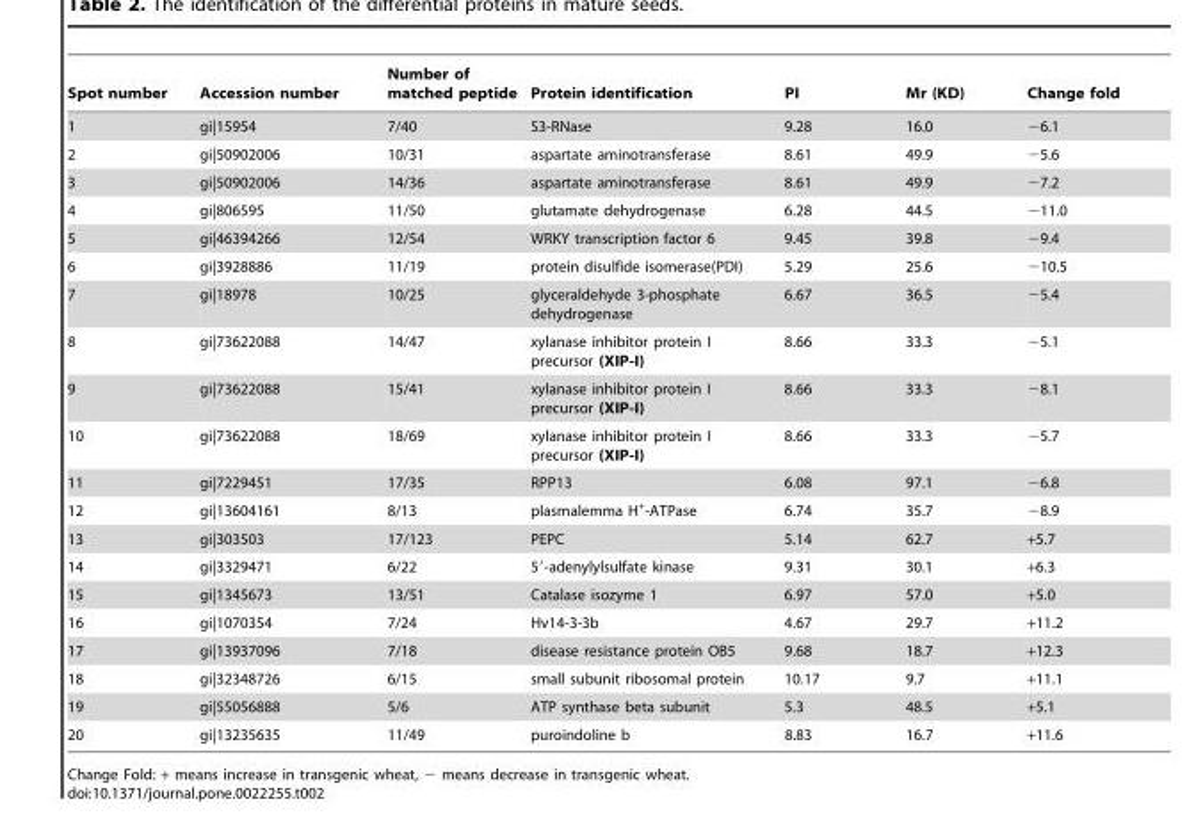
<table><thead><tr><td>Spot number</td><td>Accession number</td><td>Number of matched peptide</td><td>Protein identification</td><td>PI</td><td>Mr (KD)</td><td>Change fold</td></tr></thead><tbody><tr><td>1</td><td>gi|15954</td><td>7/40</td><td>S3-RNase</td><td>9.28</td><td>16.0</td><td>−6.1</td></tr><tr><td>2</td><td>gi|50902006</td><td>10/31</td><td>aspartate aminotransferase</td><td>8.61</td><td>49.9</td><td>−5.6</td></tr><tr><td>3</td><td>gi|50902006</td><td>14/36</td><td>aspartate aminotransferase</td><td>8.61</td><td>49.9</td><td>−7.2</td></tr><tr><td>4</td><td>gi|806595</td><td>11/50</td><td>glutamate dehydrogenase</td><td>6.28</td><td>44.5</td><td>−11.0</td></tr><tr><td>5</td><td>gi|46394266</td><td>12/54</td><td>WRKY transcription factor 6</td><td>9.45</td><td>39.8</td><td>−9.4</td></tr><tr><td>6</td><td>gi|3928886</td><td>11/19</td><td>protein disulfide isomerase(PDI)</td><td>5.29</td><td>25.6</td><td>−10.5</td></tr><tr><td>7</td><td>gi|18978</td><td>10/25</td><td>glyceraldehyde 3-phosphate dehydrogenase</td><td>6.67</td><td>36.5</td><td>−5.4</td></tr><tr><td>8</td><td>gi|73622088</td><td>14/47</td><td>xylanase inhibitor protein I precursor (XIP-I)</td><td>8.66</td><td>33.3</td><td>−5.1</td></tr><tr><td>9</td><td>gi|73622088</td><td>15/41</td><td>xylanase inhibitor protein I precursor (XIP-I)</td><td>8.66</td><td>33.3</td><td>−8.1</td></tr><tr><td>10</td><td>gi|73622088</td><td>18/69</td><td>xylanase inhibitor protein I precursor (XIP-I)</td><td>8.66</td><td>33.3</td><td>−5.7</td></tr><tr><td>11</td><td>gi|7229451</td><td>17/35</td><td>RPP13</td><td>6.08</td><td>97.1</td><td>−6.8</td></tr><tr><td>12</td><td>gi|13604161</td><td>8/13</td><td>plasmalemma H<sup>+</sup>-ATPase</td><td>6.74</td><td>35.7</td><td>−8.9</td></tr><tr><td>13</td><td>gi|303503</td><td>17/123</td><td>PEPC</td><td>5.14</td><td>62.7</td><td>+5.7</td></tr><tr><td>14</td><td>gi|3329471</td><td>6/22</td><td>5′-adenylylsulfate kinase</td><td>9.31</td><td>30.1</td><td>+6.3</td></tr><tr><td>15</td><td>gi|1345673</td><td>13/51</td><td>Catalase isozyme 1</td><td>6.97</td><td>57.0</td><td>+5.0</td></tr><tr><td>16</td><td>gi|1070354</td><td>7/24</td><td>Hv14-3-3b</td><td>4.67</td><td>29.7</td><td>+11.2</td></tr><tr><td>17</td><td>gi|13937096</td><td>7/18</td><td>disease resistance protein OB5</td><td>9.68</td><td>18.7</td><td>+12.3</td></tr><tr><td>18</td><td>gi|32348726</td><td>6/15</td><td>small subunit ribosomal protein</td><td>10.17</td><td>9.7</td><td>+11.1</td></tr><tr><td>19</td><td>gi|55056888</td><td>5/6</td><td>ATP synthase beta subunit</td><td>5.3</td><td>48.5</td><td>+5.1</td></tr><tr><td>20</td><td>gi|13235635</td><td>11/49</td><td>puroindoline b</td><td>8.83</td><td>16.7</td><td>+11.6</td></tr></tbody></table>